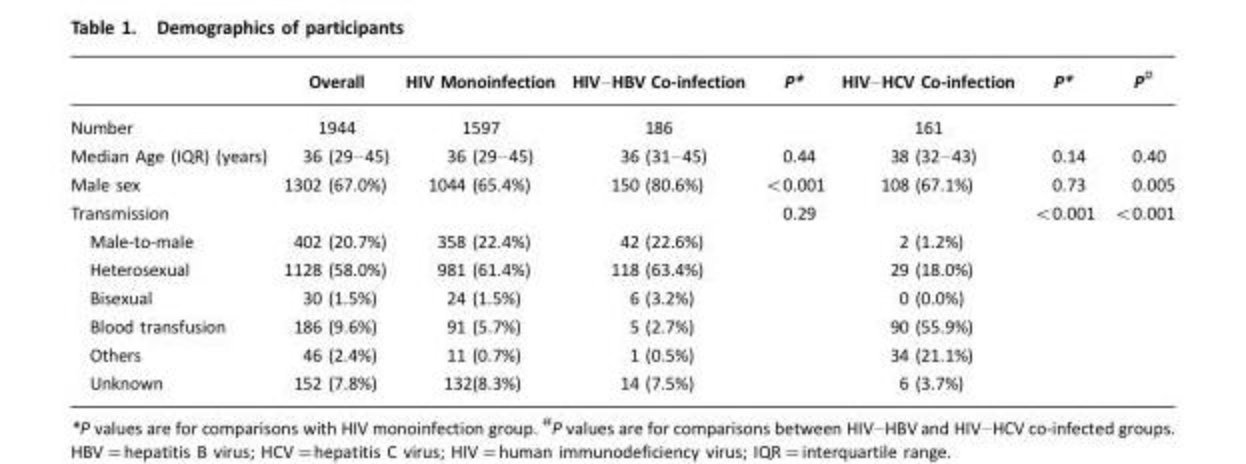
<table><thead><tr><td></td><td>Overall</td><td>HIV Monoinfection</td><td>HIV–HBV Co-infection</td><td>P*</td><td>HIV–HCV Co-infection</td><td>P*</td><td>P#</td></tr></thead><tbody><tr><td>Number</td><td>1944</td><td>1597</td><td>186</td><td></td><td>161</td><td></td><td></td></tr><tr><td>Median Age (IQR) (years)</td><td>36 (29–45)</td><td>36 (29–45)</td><td>36 (31–45)</td><td>0.44</td><td>38 (32–43)</td><td>0.14</td><td>0.40</td></tr><tr><td>Male sex</td><td>1302 (67.0%)</td><td>1044 (65.4%)</td><td>150 (80.6%)</td><td>&lt;0.001</td><td>108 (67.1%)</td><td>0.73</td><td>0.005</td></tr><tr><td>Transmission</td><td></td><td></td><td></td><td>0.29</td><td></td><td>&lt;0.001</td><td>&lt;0.001</td></tr><tr><td>Male-to-male</td><td>402 (20.7%)</td><td>358 (22.4%)</td><td>42 (22.6%)</td><td></td><td>2 (1.2%)</td><td></td><td></td></tr><tr><td>Heterosexual</td><td>1128 (58.0%)</td><td>981 (61.4%)</td><td>118 (63.4%)</td><td></td><td>29 (18.0%)</td><td></td><td></td></tr><tr><td>Bisexual</td><td>30 (1.5%)</td><td>24 (1.5%)</td><td>6 (3.2%)</td><td></td><td>0 (0.0%)</td><td></td><td></td></tr><tr><td>Blood transfusion</td><td>186 (9.6%)</td><td>91 (5.7%)</td><td>5 (2.7%)</td><td></td><td>90 (55.9%)</td><td></td><td></td></tr><tr><td>Others</td><td>46 (2.4%)</td><td>11 (0.7%)</td><td>1 (0.5%)</td><td></td><td>34 (21.1%)</td><td></td><td></td></tr><tr><td>Unknown</td><td>152 (7.8%)</td><td>132(8.3%)</td><td>14 (7.5%)</td><td></td><td>6 (3.7%)</td><td></td><td></td></tr></tbody></table>